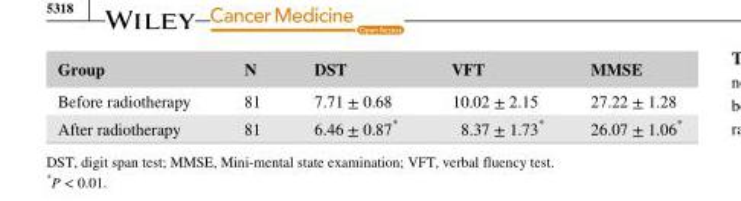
<table><thead><tr><td>Group</td><td>N</td><td>DST</td><td>VFT</td><td>MMSE</td></tr></thead><tbody><tr><td>Before radiotherapy</td><td>81</td><td>7.71 ± 0.68</td><td>10.02 ± 2.15</td><td>27.22 ± 1.28</td></tr><tr><td>After radiotherapy</td><td>81</td><td>6.46 ± 0.87*</td><td>8.37 ± 1.73*</td><td>26.07 ± 1.06*</td></tr></tbody></table>